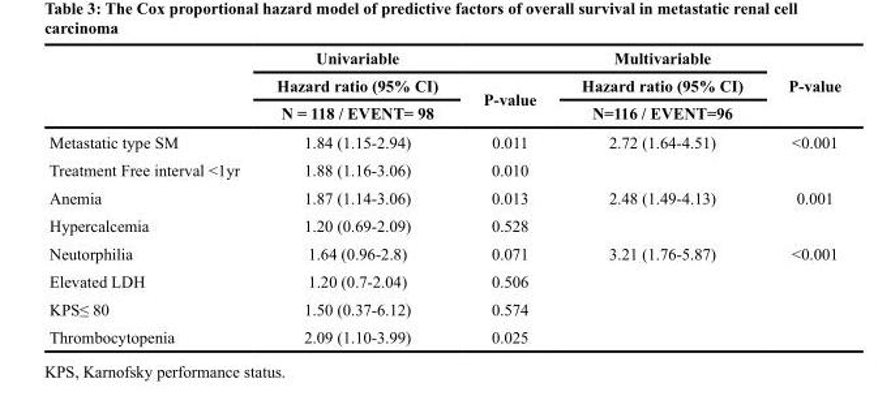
<table><thead><tr><td rowspan="3"></td><td rowspan="3">Univariable Hazard ratio (95% CI) N = 118 / EVENT= 98</td><td rowspan="3">P-value</td><td rowspan="3">Multivariable Hazard ratio (95% CI) N=116 / EVENT=96</td><td rowspan="3">P-value</td></tr><tr></tr><tr></tr></thead><tbody><tr><td>Metastatic type SM</td><td>1.84 (1.15-2.94)</td><td>0.011</td><td>2.72 (1.64-4.51)</td><td>&lt;0.001</td></tr><tr><td>Treatment Free interval &lt;1yr</td><td>1.88 (1.16-3.06)</td><td>0.010</td><td></td><td></td></tr><tr><td>Anemia</td><td>1.87 (1.14-3.06)</td><td>0.013</td><td>2.48 (1.49-4.13)</td><td>0.001</td></tr><tr><td>Hypercalcemia</td><td>1.20 (0.69-2.09)</td><td>0.528</td><td></td><td></td></tr><tr><td>Neutorphilia</td><td>1.64 (0.96-2.8)</td><td>0.071</td><td>3.21 (1.76-5.87)</td><td>&lt;0.001</td></tr><tr><td>Elevated LDH</td><td>1.20 (0.7-2.04)</td><td>0.506</td><td></td><td></td></tr><tr><td>KPS≤ 80</td><td>1.50 (0.37-6.12)</td><td>0.574</td><td></td><td></td></tr><tr><td>Thrombocytopenia</td><td>2.09 (1.10-3.99)</td><td>0.025</td><td></td><td></td></tr></tbody></table>